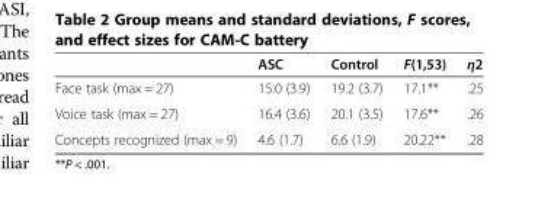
<table><thead><tr><td></td><td>ASC</td><td>Control</td><td>F(1,53)</td><td>η2</td></tr></thead><tbody><tr><td>Face task (max = 27)</td><td>15.0 (3.9)</td><td>19.2 (3.7)</td><td>17.1**</td><td>.25</td></tr><tr><td>Voice task (max = 27)</td><td>16.4 (3.6)</td><td>20.1 (3.5)</td><td>17.6**</td><td>.26</td></tr><tr><td>Concepts recognized (max = 9)</td><td>4.6 (1.7)</td><td>6.6 (1.9)</td><td>20.22**</td><td>.28</td></tr></tbody></table>